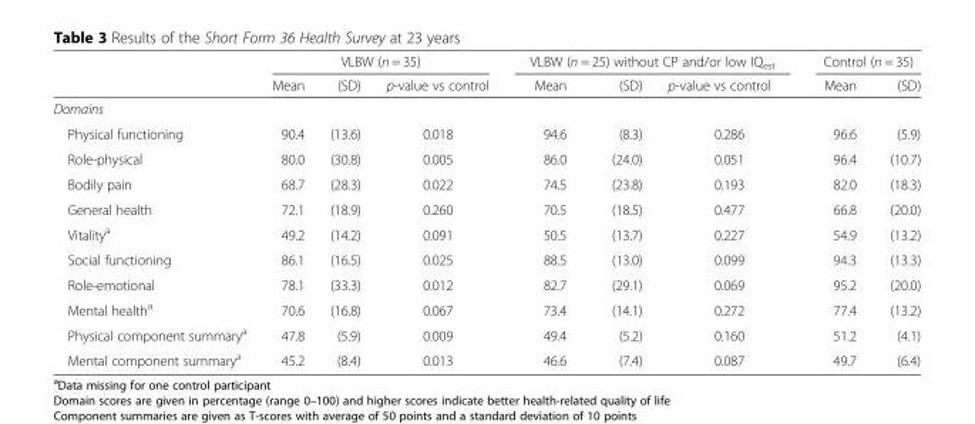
<table><thead><tr><td rowspan="2"></td><td colspan="3">VLBW (n = 35)</td><td colspan="3">VLBW (n = 25) without CP and/or low IQ<sub>est</sub></td><td colspan="2">Control (n = 35)</td></tr><tr><td>Mean</td><td>(SD)</td><td>p-value vs control</td><td>Mean</td><td>(SD)</td><td>p-value vs control</td><td>Mean</td><td>(SD)</td></tr></thead><tbody><tr><td colspan="9">Domains</td></tr><tr><td>Physical functioning</td><td>90.4</td><td>(13.6)</td><td>0.018</td><td>94.6</td><td>(8.3)</td><td>0.286</td><td>96.6</td><td>(5.9)</td></tr><tr><td>Role-physical</td><td>80.0</td><td>(30.8)</td><td>0.005</td><td>86.0</td><td>(24.0)</td><td>0.051</td><td>96.4</td><td>(10.7)</td></tr><tr><td>Bodily pain</td><td>68.7</td><td>(28.3)</td><td>0.022</td><td>74.5</td><td>(23.8)</td><td>0.193</td><td>82.0</td><td>(18.3)</td></tr><tr><td>General health</td><td>72.1</td><td>(18.9)</td><td>0.260</td><td>70.5</td><td>(18.5)</td><td>0.477</td><td>66.8</td><td>(20.0)</td></tr><tr><td>Vitality<sup>a</sup></td><td>49.2</td><td>(14.2)</td><td>0.091</td><td>50.5</td><td>(13.7)</td><td>0.227</td><td>54.9</td><td>(13.2)</td></tr><tr><td>Social functioning</td><td>86.1</td><td>(16.5)</td><td>0.025</td><td>88.5</td><td>(13.0)</td><td>0.099</td><td>94.3</td><td>(13.3)</td></tr><tr><td>Role-emotional</td><td>78.1</td><td>(33.3)</td><td>0.012</td><td>82.7</td><td>(29.1)</td><td>0.069</td><td>95.2</td><td>(20.0)</td></tr><tr><td>Mental health<sup>a</sup></td><td>70.6</td><td>(16.8)</td><td>0.067</td><td>73.4</td><td>(14.1)</td><td>0.272</td><td>77.4</td><td>(13.2)</td></tr><tr><td>Physical component summary<sup>a</sup></td><td>47.8</td><td>(5.9)</td><td>0.009</td><td>49.4</td><td>(5.2)</td><td>0.160</td><td>51.2</td><td>(4.1)</td></tr><tr><td>Mental component summary<sup>a</sup></td><td>45.2</td><td>(8.4)</td><td>0.013</td><td>46.6</td><td>(7.4)</td><td>0.087</td><td>49.7</td><td>(6.4)</td></tr></tbody></table>